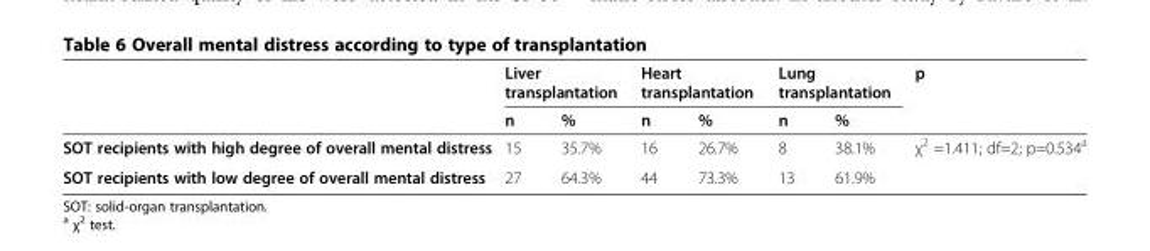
<table><thead><tr><td rowspan="2"></td><td colspan="2">Liver transplantation</td><td colspan="2">Heart transplantation</td><td colspan="2">Lung transplantation</td><td rowspan="2">p</td></tr><tr><td>n</td><td>%</td><td>n</td><td>%</td><td>n</td><td>%</td></tr></thead><tbody><tr><td>SOT recipients with high degree of overall mental distress</td><td>15</td><td>35.7%</td><td>16</td><td>26.7%</td><td>8</td><td>38.1%</td><td>χ<sup>2</sup> =1.411; df=2; p=0.534<sup>a</sup></td></tr><tr><td>SOT recipients with low degree of overall mental distress</td><td>27</td><td>64.3%</td><td>44</td><td>73.3%</td><td>13</td><td>61.9%</td><td></td></tr></tbody></table>